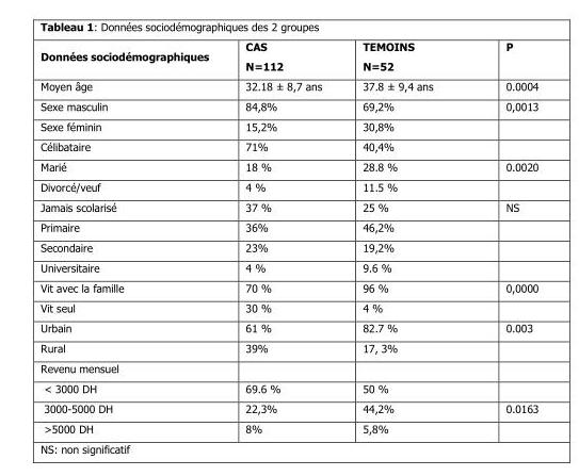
<table><thead><tr><td>Données sociodémographiques</td><td>CAS N=112</td><td>TEMOINS N=52</td><td>P</td></tr></thead><tbody><tr><td>Moyen âge</td><td>32.18 ± 8,7 ans</td><td>37.8 ± 9,4 ans</td><td>0.0004</td></tr><tr><td>Sexe masculin</td><td>84,8%</td><td>69,2%</td><td>0,0013</td></tr><tr><td>Sexe féminin</td><td>15,2%</td><td>30,8%</td><td></td></tr><tr><td>Célibataire</td><td>71%</td><td>40,4%</td><td></td></tr><tr><td>Marié</td><td>18 %</td><td>28.8 %</td><td>0.0020</td></tr><tr><td>Divorcé/veuf</td><td>4 %</td><td>11.5 %</td><td></td></tr><tr><td>Jamais scolarisé</td><td>37 %</td><td>25 %</td><td>NS</td></tr><tr><td>Primaire</td><td>36%</td><td>46,2%</td><td></td></tr><tr><td>Secondaire</td><td>23%</td><td>19,2%</td><td></td></tr><tr><td>Universitaire</td><td>4 %</td><td>9.6 %</td><td></td></tr><tr><td>Vit avec la famille</td><td>70 %</td><td>96 %</td><td>0,0000</td></tr><tr><td>Vit seul</td><td>30 %</td><td>4 %</td><td></td></tr><tr><td>Urbain</td><td>61 %</td><td>82.7 %</td><td>0.003</td></tr><tr><td>Rural</td><td>39%</td><td>17, 3%</td><td></td></tr><tr><td colspan="4">Revenu mensuel</td></tr><tr><td>&lt; 3000 DH</td><td>69.6 %</td><td>50 %</td><td></td></tr><tr><td>3000-5000 DH</td><td>22,3%</td><td>44,2%</td><td>0.0163</td></tr><tr><td>&gt;5000 DH</td><td>8%</td><td>5,8%</td><td></td></tr></tbody></table>